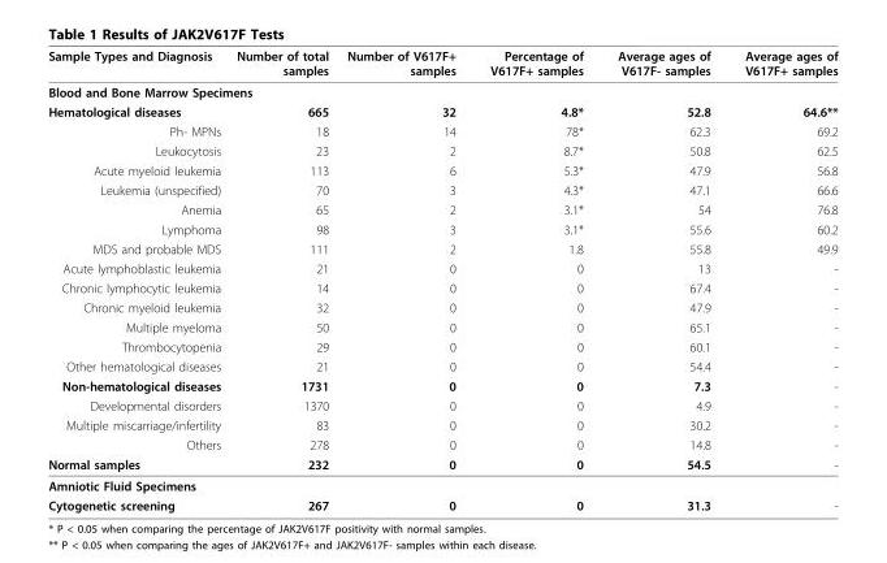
<table><thead><tr><td>Sample Types and Diagnosis</td><td>Number of total samples</td><td>Number of V617F+ samples</td><td>Percentage of V617F+ samples</td><td>Average ages of V617F- samples</td><td>Average ages of V617F+ samples</td></tr></thead><tbody><tr><td colspan="6">Blood and Bone Marrow Specimens</td></tr><tr><td>Hematological diseases</td><td>665</td><td>32</td><td>4.8*</td><td>52.8</td><td>64.6**</td></tr><tr><td>Ph- MPNs</td><td>18</td><td>14</td><td>78*</td><td>62.3</td><td>69.2</td></tr><tr><td>Leukocytosis</td><td>23</td><td>2</td><td>8.7*</td><td>50.8</td><td>62.5</td></tr><tr><td>Acute myeloid leukemia</td><td>113</td><td>6</td><td>5.3*</td><td>47.9</td><td>56.8</td></tr><tr><td>Leukemia (unspecified)</td><td>70</td><td>3</td><td>4.3*</td><td>47.1</td><td>66.6</td></tr><tr><td>Anemia</td><td>65</td><td>2</td><td>3.1*</td><td>54</td><td>76.8</td></tr><tr><td>Lymphoma</td><td>98</td><td>3</td><td>3.1*</td><td>55.6</td><td>60.2</td></tr><tr><td>MDS and probable MDS</td><td>111</td><td>2</td><td>1.8</td><td>55.8</td><td>49.9</td></tr><tr><td>Acute lymphoblastic leukemia</td><td>21</td><td>0</td><td>0</td><td>13</td><td>-</td></tr><tr><td>Chronic lymphocytic leukemia</td><td>14</td><td>0</td><td>0</td><td>67.4</td><td>-</td></tr><tr><td>Chronic myeloid leukemia</td><td>32</td><td>0</td><td>0</td><td>47.9</td><td>-</td></tr><tr><td>Multiple myeloma</td><td>50</td><td>0</td><td>0</td><td>65.1</td><td>-</td></tr><tr><td>Thrombocytopenia</td><td>29</td><td>0</td><td>0</td><td>60.1</td><td>-</td></tr><tr><td>Other hematological diseases</td><td>21</td><td>0</td><td>0</td><td>54.4</td><td>-</td></tr><tr><td>Non-hematological diseases</td><td>1731</td><td>0</td><td>0</td><td>7.3</td><td>-</td></tr><tr><td>Developmental disorders</td><td>1370</td><td>0</td><td>0</td><td>4.9</td><td>-</td></tr><tr><td>Multiple miscarriage/infertility</td><td>83</td><td>0</td><td>0</td><td>30.2</td><td>-</td></tr><tr><td>Others</td><td>278</td><td>0</td><td>0</td><td>14.8</td><td>-</td></tr><tr><td>Normal samples</td><td>232</td><td>0</td><td>0</td><td>54.5</td><td>-</td></tr><tr><td colspan="6">Amniotic Fluid Specimens</td></tr><tr><td>Cytogenetic screening</td><td>267</td><td>0</td><td>0</td><td>31.3</td><td>-</td></tr></tbody></table>